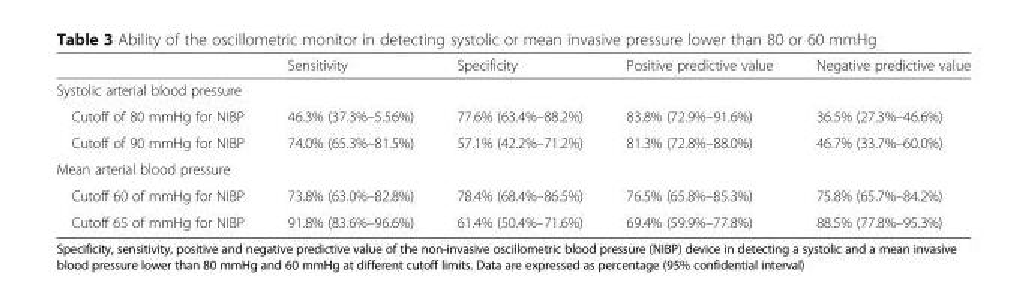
<table><thead><tr><td></td><td>Sensitivity</td><td>Specificity</td><td>Positive predictive value</td><td>Negative predictive value</td></tr></thead><tbody><tr><td colspan="5">Systolic arterial blood pressure</td></tr><tr><td>Cutoff of 80 mmHg for NIBP</td><td>46.3% (37.3%–5.56%)</td><td>77.6% (63.4%–88.2%)</td><td>83.8% (72.9%–91.6%)</td><td>36.5% (27.3%–46.6%)</td></tr><tr><td>Cutoff of 90 mmHg for NIBP</td><td>74.0% (65.3%–81.5%)</td><td>57.1% (42.2%–71.2%)</td><td>81.3% (72.8%–88.0%)</td><td>46.7% (33.7%–60.0%)</td></tr><tr><td colspan="5">Mean arterial blood pressure</td></tr><tr><td>Cutoff 60 of mmHg for NIBP</td><td>73.8% (63.0%–82.8%)</td><td>78.4% (68.4%–86.5%)</td><td>76.5% (65.8%–85.3%)</td><td>75.8% (65.7%–84.2%)</td></tr><tr><td>Cutoff 65 of mmHg for NIBP</td><td>91.8% (83.6%–96.6%)</td><td>61.4% (50.4%–71.6%)</td><td>69.4% (59.9%–77.8%)</td><td>88.5% (77.8%–95.3%)</td></tr></tbody></table>